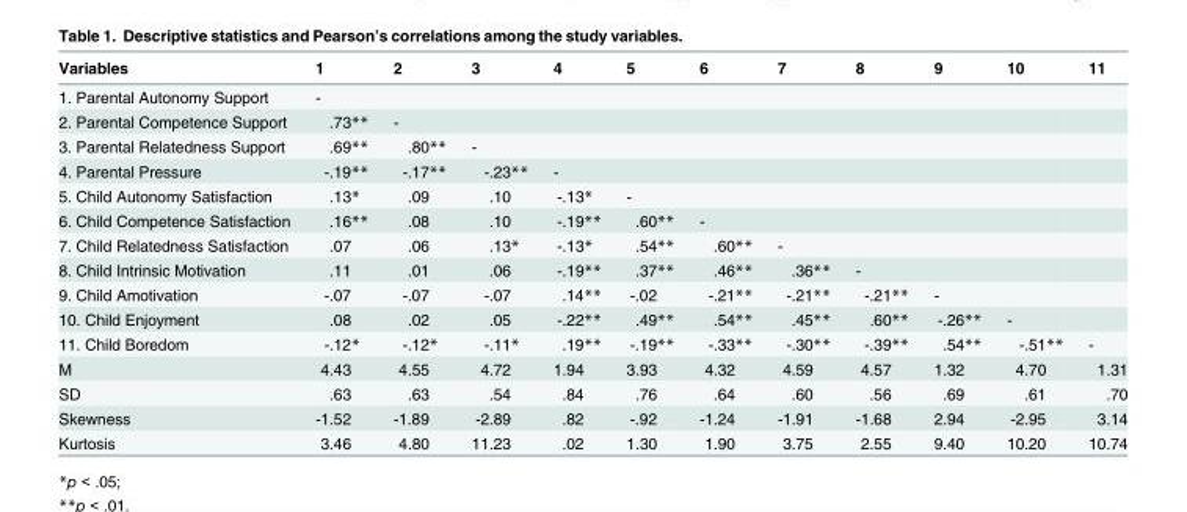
<table><thead><tr><td>Variables</td><td>1</td><td>2</td><td>3</td><td>4</td><td>5</td><td>6</td><td>7</td><td>8</td><td>9</td><td>10</td><td>11</td></tr></thead><tbody><tr><td>1. Parental Autonomy Support</td><td>-</td><td></td><td></td><td></td><td></td><td></td><td></td><td></td><td></td><td></td><td></td></tr><tr><td>2. Parental Competence Support</td><td>.73**</td><td>-</td><td></td><td></td><td></td><td></td><td></td><td></td><td></td><td></td><td></td></tr><tr><td>3. Parental Relatedness Support</td><td>.69**</td><td>.80**</td><td>-</td><td></td><td></td><td></td><td></td><td></td><td></td><td></td><td></td></tr><tr><td>4. Parental Pressure</td><td>-.19**</td><td>-.17**</td><td>-.23**</td><td>-</td><td></td><td></td><td></td><td></td><td></td><td></td><td></td></tr><tr><td>5. Child Autonomy Satisfaction</td><td>.13*</td><td>.09</td><td>.10</td><td>-.13*</td><td>-</td><td></td><td></td><td></td><td></td><td></td><td></td></tr><tr><td>6. Child Competence Satisfaction</td><td>.16**</td><td>.08</td><td>.10</td><td>-.19**</td><td>.60**</td><td>-</td><td></td><td></td><td></td><td></td><td></td></tr><tr><td>7. Child Relatedness Satisfaction</td><td>.07</td><td>.06</td><td>.13*</td><td>-.13*</td><td>.54**</td><td>.60**</td><td>-</td><td></td><td></td><td></td><td></td></tr><tr><td>8. Child Intrinsic Motivation</td><td>.11</td><td>.01</td><td>.06</td><td>-.19**</td><td>.37**</td><td>.46**</td><td>.36**</td><td>-</td><td></td><td></td><td></td></tr><tr><td>9. Child Amotivation</td><td>-.07</td><td>-.07</td><td>-.07</td><td>.14**</td><td>-.02</td><td>-.21**</td><td>-.21**</td><td>-.21**</td><td>-</td><td></td><td></td></tr><tr><td>10. Child Enjoyment</td><td>.08</td><td>.02</td><td>.05</td><td>-.22**</td><td>.49**</td><td>.54**</td><td>.45**</td><td>.60**</td><td>-.26**</td><td>-</td><td></td></tr><tr><td>11. Child Boredom</td><td>-.12*</td><td>-.12*</td><td>-.11*</td><td>.19**</td><td>-.19**</td><td>-.33**</td><td>-.30**</td><td>-.39**</td><td>.54**</td><td>-.51**</td><td>-</td></tr><tr><td>M</td><td>4.43</td><td>4.55</td><td>4.72</td><td>1.94</td><td>3.93</td><td>4.32</td><td>4.59</td><td>4.57</td><td>1.32</td><td>4.70</td><td>1.31</td></tr><tr><td>SD</td><td>.63</td><td>.63</td><td>.54</td><td>.84</td><td>.76</td><td>.64</td><td>.60</td><td>.56</td><td>.69</td><td>.61</td><td>.70</td></tr><tr><td>Skewness</td><td>-1.52</td><td>-1.89</td><td>-2.89</td><td>.82</td><td>-.92</td><td>-1.24</td><td>-1.91</td><td>-1.68</td><td>2.94</td><td>-2.95</td><td>3.14</td></tr><tr><td>Kurtosis</td><td>3.46</td><td>4.80</td><td>11.23</td><td>.02</td><td>1.30</td><td>1.90</td><td>3.75</td><td>2.55</td><td>9.40</td><td>10.20</td><td>10.74</td></tr></tbody></table>